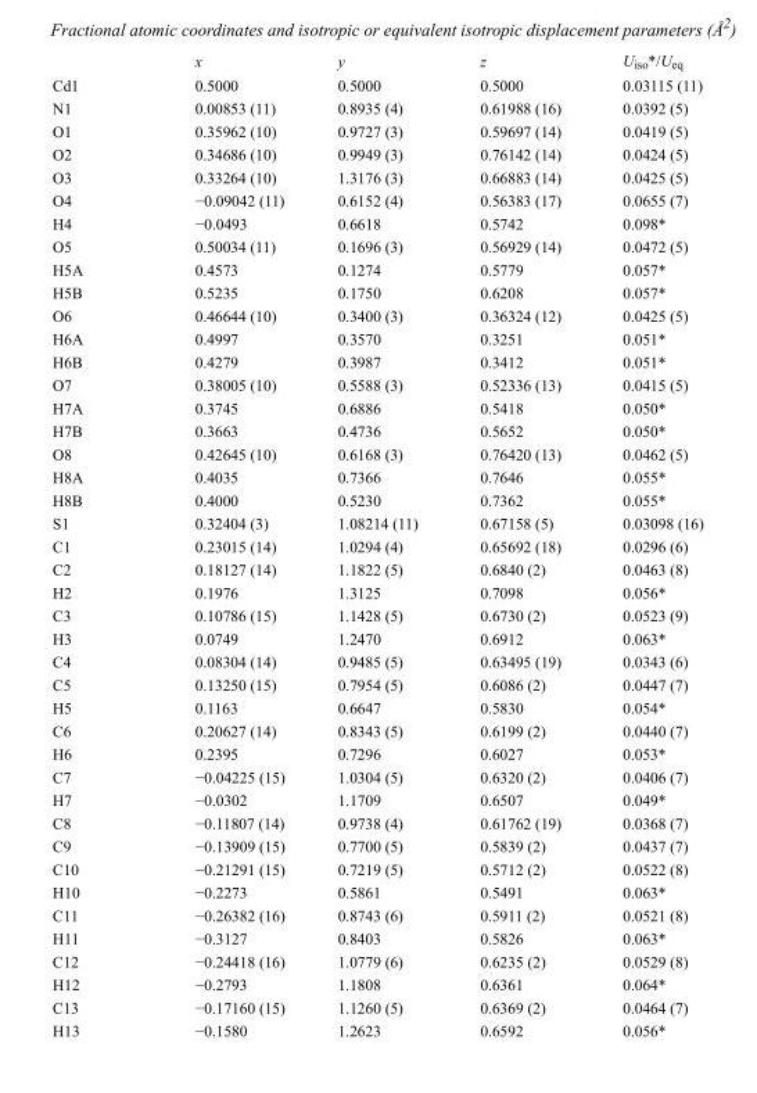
<table><thead><tr><td></td><td>x</td><td>y</td><td>z</td><td>U<sub>iso</sub>*/U<sub>eq</sub></td></tr></thead><tbody><tr><td>Cd1</td><td>0.5000</td><td>0.5000</td><td>0.5000</td><td>0.03115 (11)</td></tr><tr><td>N1</td><td>0.00853 (11)</td><td>0.8935 (4)</td><td>0.61988 (16)</td><td>0.0392 (5)</td></tr><tr><td>O1</td><td>0.35962 (10)</td><td>0.9727 (3)</td><td>0.59697 (14)</td><td>0.0419 (5)</td></tr><tr><td>O2</td><td>0.34686 (10)</td><td>0.9949 (3)</td><td>0.76142 (14)</td><td>0.0424 (5)</td></tr><tr><td>O3</td><td>0.33264 (10)</td><td>1.3176 (3)</td><td>0.66883 (14)</td><td>0.0425 (5)</td></tr><tr><td>O4</td><td>−0.09042 (11)</td><td>0.6152 (4)</td><td>0.56383 (17)</td><td>0.0655 (7)</td></tr><tr><td>H4</td><td>−0.0493</td><td>0.6618</td><td>0.5742</td><td>0.098*</td></tr><tr><td>O5</td><td>0.50034 (11)</td><td>0.1696 (3)</td><td>0.56929 (14)</td><td>0.0472 (5)</td></tr><tr><td>H5A</td><td>0.4573</td><td>0.1274</td><td>0.5779</td><td>0.057*</td></tr><tr><td>H5B</td><td>0.5235</td><td>0.1750</td><td>0.6208</td><td>0.057*</td></tr><tr><td>O6</td><td>0.46644 (10)</td><td>0.3400 (3)</td><td>0.36324 (12)</td><td>0.0425 (5)</td></tr><tr><td>H6A</td><td>0.4997</td><td>0.3570</td><td>0.3251</td><td>0.051*</td></tr><tr><td>H6B</td><td>0.4279</td><td>0.3987</td><td>0.3412</td><td>0.051*</td></tr><tr><td>O7</td><td>0.38005 (10)</td><td>0.5588 (3)</td><td>0.52336 (13)</td><td>0.0415 (5)</td></tr><tr><td>H7A</td><td>0.3745</td><td>0.6886</td><td>0.5418</td><td>0.050*</td></tr><tr><td>H7B</td><td>0.3663</td><td>0.4736</td><td>0.5652</td><td>0.050*</td></tr><tr><td>O8</td><td>0.42645 (10)</td><td>0.6168 (3)</td><td>0.76420 (13)</td><td>0.0462 (5)</td></tr><tr><td>H8A</td><td>0.4035</td><td>0.7366</td><td>0.7646</td><td>0.055*</td></tr><tr><td>H8B</td><td>0.4000</td><td>0.5230</td><td>0.7362</td><td>0.055*</td></tr><tr><td>S1</td><td>0.32404 (3)</td><td>1.08214 (11)</td><td>0.67158 (5)</td><td>0.03098 (16)</td></tr><tr><td>C1</td><td>0.23015 (14)</td><td>1.0294 (4)</td><td>0.65692 (18)</td><td>0.0296 (6)</td></tr><tr><td>C2</td><td>0.18127 (14)</td><td>1.1822 (5)</td><td>0.6840 (2)</td><td>0.0463 (8)</td></tr><tr><td>H2</td><td>0.1976</td><td>1.3125</td><td>0.7098</td><td>0.056*</td></tr><tr><td>C3</td><td>0.10786 (15)</td><td>1.1428 (5)</td><td>0.6730 (2)</td><td>0.0523 (9)</td></tr><tr><td>H3</td><td>0.0749</td><td>1.2470</td><td>0.6912</td><td>0.063*</td></tr><tr><td>C4</td><td>0.08304 (14)</td><td>0.9485 (5)</td><td>0.63495 (19)</td><td>0.0343 (6)</td></tr><tr><td>C5</td><td>0.13250 (15)</td><td>0.7954 (5)</td><td>0.6086 (2)</td><td>0.0447 (7)</td></tr><tr><td>H5</td><td>0.1163</td><td>0.6647</td><td>0.5830</td><td>0.054*</td></tr><tr><td>C6</td><td>0.20627 (14)</td><td>0.8343 (5)</td><td>0.6199 (2)</td><td>0.0440 (7)</td></tr><tr><td>H6</td><td>0.2395</td><td>0.7296</td><td>0.6027</td><td>0.053*</td></tr><tr><td>C7</td><td>−0.04225 (15)</td><td>1.0304 (5)</td><td>0.6320 (2)</td><td>0.0406 (7)</td></tr><tr><td>H7</td><td>−0.0302</td><td>1.1709</td><td>0.6507</td><td>0.049*</td></tr><tr><td>C8</td><td>−0.11807 (14)</td><td>0.9738 (4)</td><td>0.61762 (19)</td><td>0.0368 (7)</td></tr><tr><td>C9</td><td>−0.13909 (15)</td><td>0.7700 (5)</td><td>0.5839 (2)</td><td>0.0437 (7)</td></tr><tr><td>C10</td><td>−0.21291 (15)</td><td>0.7219 (5)</td><td>0.5712 (2)</td><td>0.0522 (8)</td></tr><tr><td>H10</td><td>−0.2273</td><td>0.5861</td><td>0.5491</td><td>0.063*</td></tr><tr><td>C11</td><td>−0.26382 (16)</td><td>0.8743 (6)</td><td>0.5911 (2)</td><td>0.0521 (8)</td></tr><tr><td>H11</td><td>−0.3127</td><td>0.8403</td><td>0.5826</td><td>0.063*</td></tr><tr><td>C12</td><td>−0.24418 (16)</td><td>1.0779 (6)</td><td>0.6235 (2)</td><td>0.0529 (8)</td></tr><tr><td>H12</td><td>−0.2793</td><td>1.1808</td><td>0.6361</td><td>0.064*</td></tr><tr><td>C13</td><td>−0.17160 (15)</td><td>1.1260 (5)</td><td>0.6369 (2)</td><td>0.0464 (7)</td></tr><tr><td>H13</td><td>−0.1580</td><td>1.2623</td><td>0.6592</td><td>0.056*</td></tr></tbody></table>